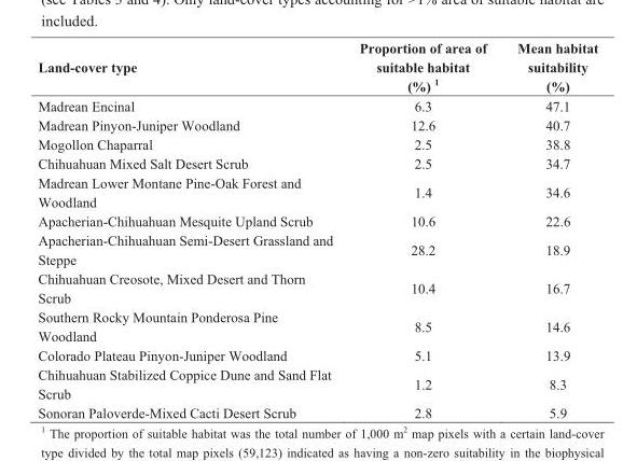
<table><thead><tr><td>Land-cover type</td><td>Proportion of area of suitable habitat (%) <sup>1</sup></td><td>Mean habitat suitability (%)</td></tr></thead><tbody><tr><td>Madrean Encinal</td><td>6.3</td><td>47.1</td></tr><tr><td>Madrean Pinyon-Juniper Woodland</td><td>12.6</td><td>40.7</td></tr><tr><td>Mogollon Chaparral</td><td>2.5</td><td>38.8</td></tr><tr><td>Chihuahuan Mixed Salt Desert Scrub</td><td>2.5</td><td>34.7</td></tr><tr><td>Madrean Lower Montane Pine-Oak Forest and Woodland</td><td>1.4</td><td>34.6</td></tr><tr><td>Apacherian-Chihuahuan Mesquite Upland Scrub</td><td>10.6</td><td>22.6</td></tr><tr><td>Apacherian-Chihuahuan Semi-Desert Grassland and Steppe</td><td>28.2</td><td>18.9</td></tr><tr><td>Chihuahuan Creosote, Mixed Desert and Thorn Scrub</td><td>10.4</td><td>16.7</td></tr><tr><td>Southern Rocky Mountain Ponderosa Pine Woodland</td><td>8.5</td><td>14.6</td></tr><tr><td>Colorado Plateau Pinyon-Juniper Woodland</td><td>5.1</td><td>13.9</td></tr><tr><td>Chihuahuan Stabilized Coppice Dune and Sand Flat Scrub</td><td>1.2</td><td>8.3</td></tr><tr><td>Sonoran Paloverde-Mixed Cacti Desert Scrub</td><td>2.8</td><td>5.9</td></tr></tbody></table>